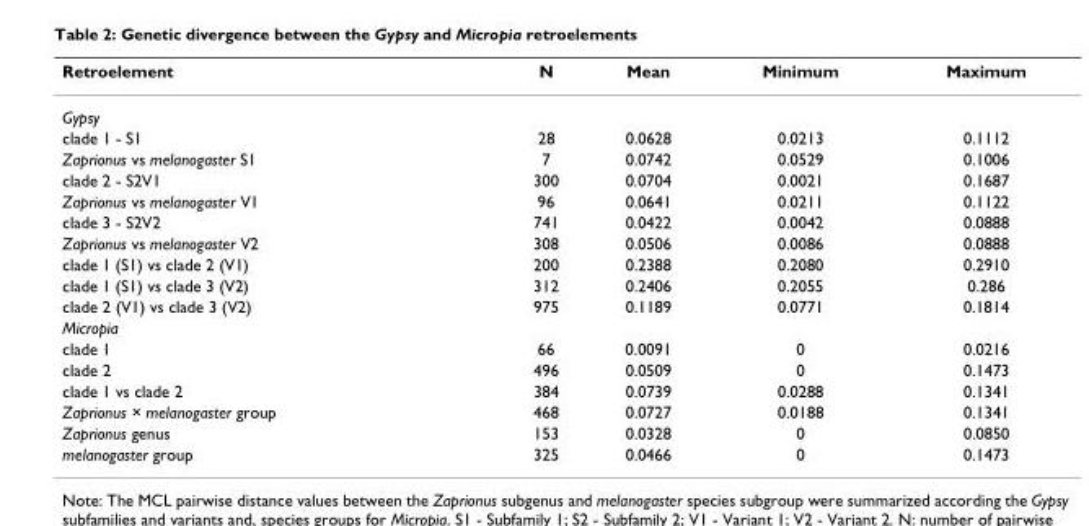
<table><thead><tr><td>Retroelement</td><td>N</td><td>Mean</td><td>Minimum</td><td>Maximum</td></tr></thead><tbody><tr><td colspan="5">Gypsy</td></tr><tr><td>clade 1 - S1</td><td>28</td><td>0.0628</td><td>0.0213</td><td>0.1112</td></tr><tr><td>Zaprionus vs melanogaster S1</td><td>7</td><td>0.0742</td><td>0.0529</td><td>0.1006</td></tr><tr><td>clade 2 - S2V1</td><td>300</td><td>0.0704</td><td>0.0021</td><td>0.1687</td></tr><tr><td>Zaprionus vs melanogaster V1</td><td>96</td><td>0.0641</td><td>0.0211</td><td>0.1122</td></tr><tr><td>clade 3 - S2V2</td><td>741</td><td>0.0422</td><td>0.0042</td><td>0.0888</td></tr><tr><td>Zaprionus vs melanogaster V2</td><td>308</td><td>0.0506</td><td>0.0086</td><td>0.0888</td></tr><tr><td>clade 1 (S1) vs clade 2 (V1)</td><td>200</td><td>0.2388</td><td>0.2080</td><td>0.2910</td></tr><tr><td>clade 1 (S1) vs clade 3 (V2)</td><td>312</td><td>0.2406</td><td>0.2055</td><td>0.286</td></tr><tr><td>clade 2 (V1) vs clade 3 (V2)</td><td>975</td><td>0.1189</td><td>0.0771</td><td>0.1814</td></tr><tr><td colspan="5">Micropia</td></tr><tr><td>clade 1</td><td>66</td><td>0.0091</td><td>0</td><td>0.0216</td></tr><tr><td>clade 2</td><td>496</td><td>0.0509</td><td>0</td><td>0.1473</td></tr><tr><td>clade 1 vs clade 2</td><td>384</td><td>0.0739</td><td>0.0288</td><td>0.1341</td></tr><tr><td>Zaprionus × melanogaster group</td><td>468</td><td>0.0727</td><td>0.0188</td><td>0.1341</td></tr><tr><td>Zaprionus genus</td><td>153</td><td>0.0328</td><td>0</td><td>0.0850</td></tr><tr><td>melanogaster group</td><td>325</td><td>0.0466</td><td>0</td><td>0.1473</td></tr></tbody></table>